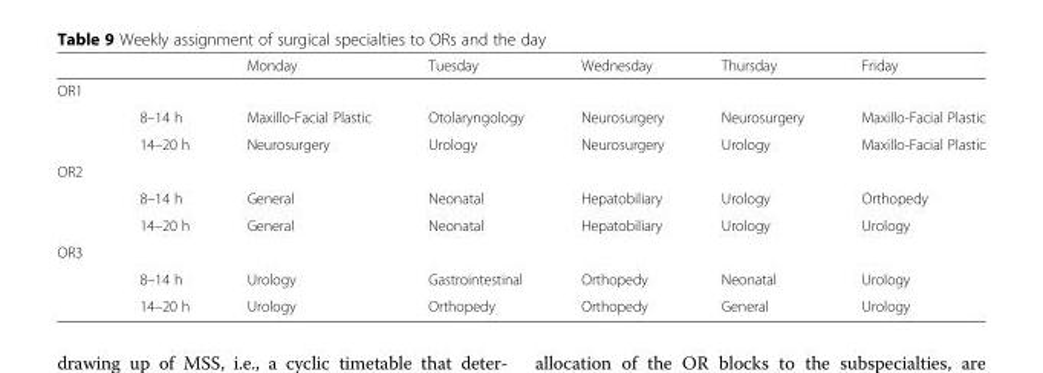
<table><thead><tr><td></td><td></td><td>Monday</td><td>Tuesday</td><td>Wednesday</td><td>Thursday</td><td>Friday</td></tr></thead><tbody><tr><td colspan="7">OR1</td></tr><tr><td></td><td>8–14 h</td><td>Maxillo-Facial Plastic</td><td>Otolaryngology</td><td>Neurosurgery</td><td>Neurosurgery</td><td>Maxillo-Facial Plastic</td></tr><tr><td></td><td>14–20 h</td><td>Neurosurgery</td><td>Urology</td><td>Neurosurgery</td><td>Urology</td><td>Maxillo-Facial Plastic</td></tr><tr><td colspan="7">OR2</td></tr><tr><td></td><td>8–14 h</td><td>General</td><td>Neonatal</td><td>Hepatobiliary</td><td>Urology</td><td>Orthopedy</td></tr><tr><td></td><td>14–20 h</td><td>General</td><td>Neonatal</td><td>Hepatobiliary</td><td>Urology</td><td>Urology</td></tr><tr><td colspan="7">OR3</td></tr><tr><td></td><td>8–14 h</td><td>Urology</td><td>Gastrointestinal</td><td>Orthopedy</td><td>Neonatal</td><td>Urology</td></tr><tr><td></td><td>14–20 h</td><td>Urology</td><td>Orthopedy</td><td>Orthopedy</td><td>General</td><td>Urology</td></tr></tbody></table>